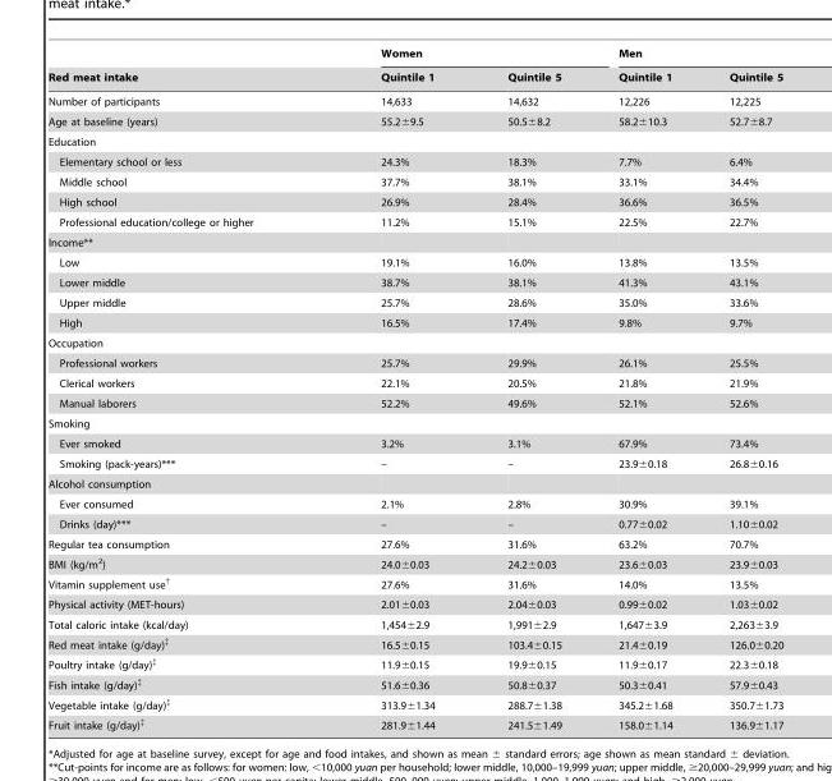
<table><thead><tr><td rowspan="2">Red meat intake</td><td colspan="2">Women</td><td colspan="2">Men</td></tr><tr><td>Quintile 1</td><td>Quintile 5</td><td>Quintile 1</td><td>Quintile 5</td></tr></thead><tbody><tr><td>Number of participants</td><td>14,633</td><td>14,632</td><td>12,226</td><td>12,225</td></tr><tr><td>Age at baseline (years)</td><td>55.2±9.5</td><td>50.5±8.2</td><td>58.2±10.3</td><td>52.7±8.7</td></tr><tr><td colspan="5">Education</td></tr><tr><td>Elementary school or less</td><td>24.3%</td><td>18.3%</td><td>7.7%</td><td>6.4%</td></tr><tr><td>Middle school</td><td>37.7%</td><td>38.1%</td><td>33.1%</td><td>34.4%</td></tr><tr><td>High school</td><td>26.9%</td><td>28.4%</td><td>36.6%</td><td>36.5%</td></tr><tr><td>Professional education/college or higher</td><td>11.2%</td><td>15.1%</td><td>22.5%</td><td>22.7%</td></tr><tr><td colspan="5">Income**</td></tr><tr><td>Low</td><td>19.1%</td><td>16.0%</td><td>13.8%</td><td>13.5%</td></tr><tr><td>Lower middle</td><td>38.7%</td><td>38.1%</td><td>41.3%</td><td>43.1%</td></tr><tr><td>Upper middle</td><td>25.7%</td><td>28.6%</td><td>35.0%</td><td>33.6%</td></tr><tr><td>High</td><td>16.5%</td><td>17.4%</td><td>9.8%</td><td>9.7%</td></tr><tr><td colspan="5">Occupation</td></tr><tr><td>Professional workers</td><td>25.7%</td><td>29.9%</td><td>26.1%</td><td>25.5%</td></tr><tr><td>Clerical workers</td><td>22.1%</td><td>20.5%</td><td>21.8%</td><td>21.9%</td></tr><tr><td>Manual laborers</td><td>52.2%</td><td>49.6%</td><td>52.1%</td><td>52.6%</td></tr><tr><td colspan="5">Smoking</td></tr><tr><td>Ever smoked</td><td>3.2%</td><td>3.1%</td><td>67.9%</td><td>73.4%</td></tr><tr><td>Smoking (pack-years)***</td><td>–</td><td>–</td><td>23.9±0.18</td><td>26.8±0.16</td></tr><tr><td colspan="5">Alcohol consumption</td></tr><tr><td>Ever consumed</td><td>2.1%</td><td>2.8%</td><td>30.9%</td><td>39.1%</td></tr><tr><td>Drinks (day)***</td><td>–</td><td>–</td><td>0.77±0.02</td><td>1.10±0.02</td></tr><tr><td>Regular tea consumption</td><td>27.6%</td><td>31.6%</td><td>63.2%</td><td>70.7%</td></tr><tr><td>BMI (kg/m<sup>2</sup>)</td><td>24.0±0.03</td><td>24.2±0.03</td><td>23.6±0.03</td><td>23.9±0.03</td></tr><tr><td>Vitamin supplement use†</td><td>27.6%</td><td>31.6%</td><td>14.0%</td><td>13.5%</td></tr><tr><td>Physical activity (MET-hours)</td><td>2.01±0.03</td><td>2.04±0.03</td><td>0.99±0.02</td><td>1.03±0.02</td></tr><tr><td>Total caloric intake (kcal/day)</td><td>1,454±2.9</td><td>1,991±2.9</td><td>1,647±3.9</td><td>2,263±3.9</td></tr><tr><td>Red meat intake (g/day)‡</td><td>16.5±0.15</td><td>103.4±0.15</td><td>21.4±0.19</td><td>126.0±0.20</td></tr><tr><td>Poultry intake (g/day)‡</td><td>11.9±0.15</td><td>19.9±0.15</td><td>11.9±0.17</td><td>22.3±0.18</td></tr><tr><td>Fish intake (g/day)‡</td><td>51.6±0.36</td><td>50.8±0.37</td><td>50.3±0.41</td><td>57.9±0.43</td></tr><tr><td>Vegetable intake (g/day)‡</td><td>313.9±1.34</td><td>288.7±1.38</td><td>345.2±1.68</td><td>350.7±1.73</td></tr><tr><td>Fruit intake (g/day)‡</td><td>281.9±1.44</td><td>241.5±1.49</td><td>158.0±1.14</td><td>136.9±1.17</td></tr></tbody></table>